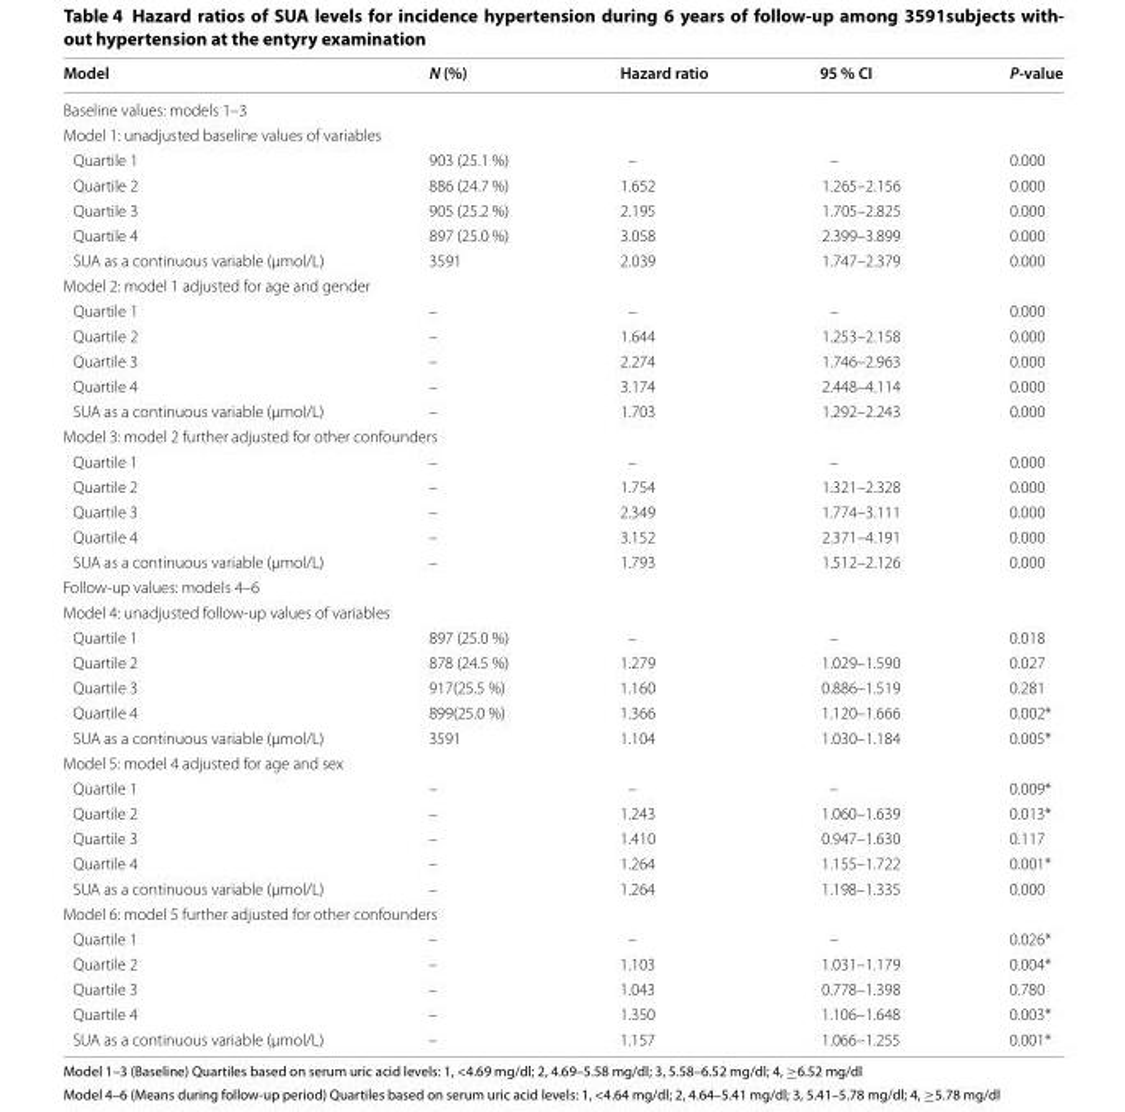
<table><thead><tr><td>Model</td><td>N (%)</td><td>Hazard ratio</td><td>95 % CI</td><td>P-value</td></tr></thead><tbody><tr><td colspan="5">Baseline values: models 1–3</td></tr><tr><td colspan="5">Model 1: unadjusted baseline values of variables</td></tr><tr><td>Quartile 1</td><td>903 (25.1 %)</td><td>–</td><td>–</td><td>0.000</td></tr><tr><td>Quartile 2</td><td>886 (24.7 %)</td><td>1.652</td><td>1.265–2.156</td><td>0.000</td></tr><tr><td>Quartile 3</td><td>905 (25.2 %)</td><td>2.195</td><td>1.705–2.825</td><td>0.000</td></tr><tr><td>Quartile 4</td><td>897 (25.0 %)</td><td>3.058</td><td>2.399–3.899</td><td>0.000</td></tr><tr><td>SUA as a continuous variable (μmol/L)</td><td>3591</td><td>2.039</td><td>1.747–2.379</td><td>0.000</td></tr><tr><td colspan="5">Model 2: model 1 adjusted for age and gender</td></tr><tr><td>Quartile 1</td><td>–</td><td>–</td><td>–</td><td>0.000</td></tr><tr><td>Quartile 2</td><td>–</td><td>1.644</td><td>1.253–2.158</td><td>0.000</td></tr><tr><td>Quartile 3</td><td>–</td><td>2.274</td><td>1.746–2.963</td><td>0.000</td></tr><tr><td>Quartile 4</td><td>–</td><td>3.174</td><td>2.448–4.114</td><td>0.000</td></tr><tr><td>SUA as a continuous variable (μmol/L)</td><td>–</td><td>1.703</td><td>1.292–2.243</td><td>0.000</td></tr><tr><td colspan="5">Model 3: model 2 further adjusted for other confounders</td></tr><tr><td>Quartile 1</td><td>–</td><td>–</td><td>–</td><td>0.000</td></tr><tr><td>Quartile 2</td><td>–</td><td>1.754</td><td>1.321–2.328</td><td>0.000</td></tr><tr><td>Quartile 3</td><td>–</td><td>2.349</td><td>1.774–3.111</td><td>0.000</td></tr><tr><td>Quartile 4</td><td>–</td><td>3.152</td><td>2.371–4.191</td><td>0.000</td></tr><tr><td>SUA as a continuous variable (μmol/L)</td><td>–</td><td>1.793</td><td>1.512–2.126</td><td>0.000</td></tr><tr><td colspan="5">Follow‑up values: models 4–6</td></tr><tr><td colspan="5">Model 4: unadjusted follow‑up values of variables</td></tr><tr><td>Quartile 1</td><td>897 (25.0 %)</td><td>–</td><td>–</td><td>0.018</td></tr><tr><td>Quartile 2</td><td>878 (24.5 %)</td><td>1.279</td><td>1.029–1.590</td><td>0.027</td></tr><tr><td>Quartile 3</td><td>917(25.5 %)</td><td>1.160</td><td>0.886–1.519</td><td>0.281</td></tr><tr><td>Quartile 4</td><td>899(25.0 %)</td><td>1.366</td><td>1.120–1.666</td><td>0.002*</td></tr><tr><td>SUA as a continuous variable (μmol/L)</td><td>3591</td><td>1.104</td><td>1.030–1.184</td><td>0.005*</td></tr><tr><td colspan="5">Model 5: model 4 adjusted for age and sex</td></tr><tr><td>Quartile 1</td><td>–</td><td>–</td><td>–</td><td>0.009*</td></tr><tr><td>Quartile 2</td><td>–</td><td>1.243</td><td>1.060–1.639</td><td>0.013*</td></tr><tr><td>Quartile 3</td><td>–</td><td>1.410</td><td>0.947–1.630</td><td>0.117</td></tr><tr><td>Quartile 4</td><td>–</td><td>1.264</td><td>1.155–1.722</td><td>0.001*</td></tr><tr><td>SUA as a continuous variable (μmol/L)</td><td>–</td><td>1.264</td><td>1.198–1.335</td><td>0.000</td></tr><tr><td colspan="5">Model 6: model 5 further adjusted for other confounders</td></tr><tr><td>Quartile 1</td><td>–</td><td>–</td><td>–</td><td>0.026*</td></tr><tr><td>Quartile 2</td><td>–</td><td>1.103</td><td>1.031–1.179</td><td>0.004*</td></tr><tr><td>Quartile 3</td><td>–</td><td>1.043</td><td>0.778–1.398</td><td>0.780</td></tr><tr><td>Quartile 4</td><td>–</td><td>1.350</td><td>1.106–1.648</td><td>0.003*</td></tr><tr><td>SUA as a continuous variable (μmol/L)</td><td>–</td><td>1.157</td><td>1.066–1.255</td><td>0.001*</td></tr></tbody></table>